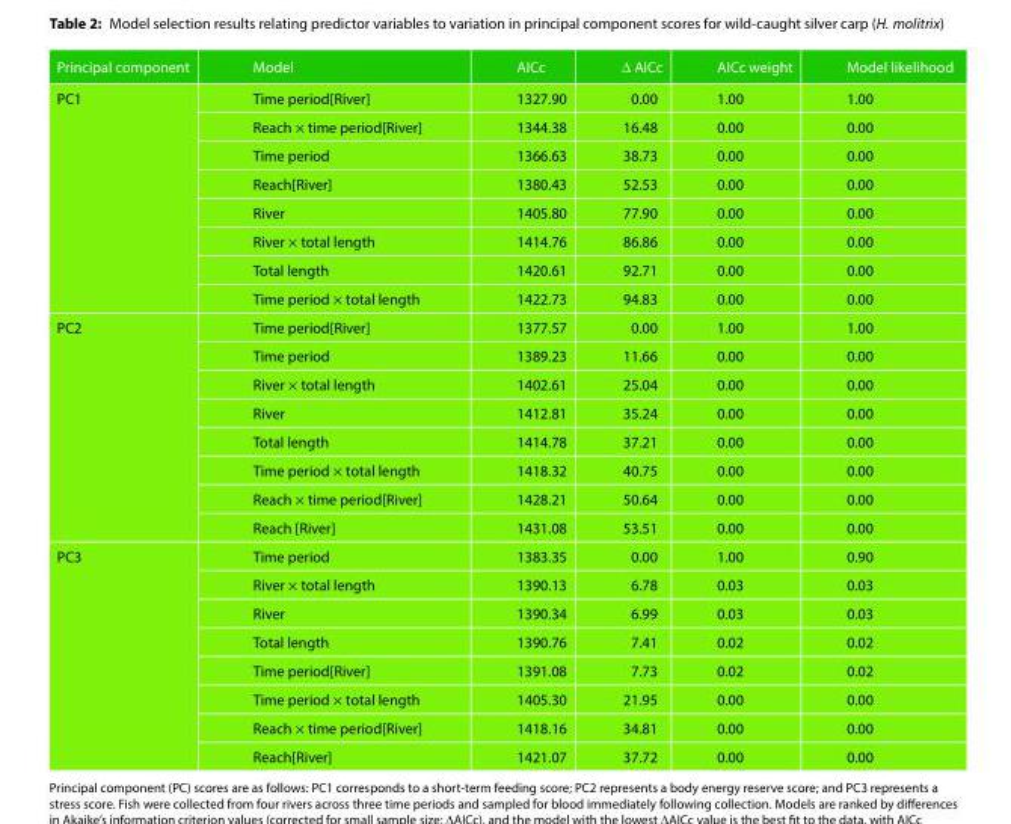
<table><thead><tr><td>Principal component</td><td>Model</td><td>AICc</td><td>Δ AICc</td><td>AICc weight</td><td>Model likelihood</td></tr></thead><tbody><tr><td rowspan="8">PC1</td><td>Time period[River]</td><td>1327.90</td><td>0.00</td><td>1.00</td><td>1.00</td></tr><tr><td>Reach × time period[River]</td><td>1344.38</td><td>16.48</td><td>0.00</td><td>0.00</td></tr><tr><td>Time period</td><td>1366.63</td><td>38.73</td><td>0.00</td><td>0.00</td></tr><tr><td>Reach[River]</td><td>1380.43</td><td>52.53</td><td>0.00</td><td>0.00</td></tr><tr><td>River</td><td>1405.80</td><td>77.90</td><td>0.00</td><td>0.00</td></tr><tr><td>River × total length</td><td>1414.76</td><td>86.86</td><td>0.00</td><td>0.00</td></tr><tr><td>Total length</td><td>1420.61</td><td>92.71</td><td>0.00</td><td>0.00</td></tr><tr><td>Time period × total length</td><td>1422.73</td><td>94.83</td><td>0.00</td><td>0.00</td></tr><tr><td rowspan="8">PC2</td><td>Time period[River]</td><td>1377.57</td><td>0.00</td><td>1.00</td><td>1.00</td></tr><tr><td>Time period</td><td>1389.23</td><td>11.66</td><td>0.00</td><td>0.00</td></tr><tr><td>River × total length</td><td>1402.61</td><td>25.04</td><td>0.00</td><td>0.00</td></tr><tr><td>River</td><td>1412.81</td><td>35.24</td><td>0.00</td><td>0.00</td></tr><tr><td>Total length</td><td>1414.78</td><td>37.21</td><td>0.00</td><td>0.00</td></tr><tr><td>Time period × total length</td><td>1418.32</td><td>40.75</td><td>0.00</td><td>0.00</td></tr><tr><td>Reach × time period[River]</td><td>1428.21</td><td>50.64</td><td>0.00</td><td>0.00</td></tr><tr><td>Reach [River]</td><td>1431.08</td><td>53.51</td><td>0.00</td><td>0.00</td></tr><tr><td rowspan="8">PC3</td><td>Time period</td><td>1383.35</td><td>0.00</td><td>1.00</td><td>0.90</td></tr><tr><td>River × total length</td><td>1390.13</td><td>6.78</td><td>0.03</td><td>0.03</td></tr><tr><td>River</td><td>1390.34</td><td>6.99</td><td>0.03</td><td>0.03</td></tr><tr><td>Total length</td><td>1390.76</td><td>7.41</td><td>0.02</td><td>0.02</td></tr><tr><td>Time period[River]</td><td>1391.08</td><td>7.73</td><td>0.02</td><td>0.02</td></tr><tr><td>Time period × total length</td><td>1405.30</td><td>21.95</td><td>0.00</td><td>0.00</td></tr><tr><td>Reach × time period[River]</td><td>1418.16</td><td>34.81</td><td>0.00</td><td>0.00</td></tr><tr><td>Reach[River]</td><td>1421.07</td><td>37.72</td><td>0.00</td><td>0.00</td></tr></tbody></table>